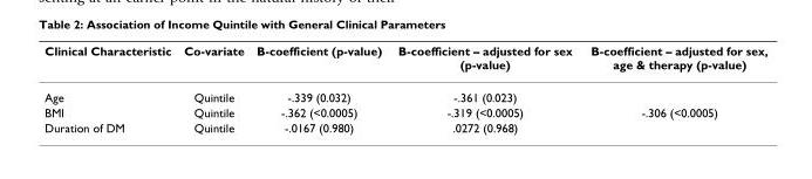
<table><thead><tr><td>Clinical Characteristic</td><td>Co-variate</td><td>B-coefficient (p-value)</td><td>B-coefficient – adjusted for sex (p-value)</td><td>B-coefficient – adjusted for sex, age &amp; therapy (p-value)</td></tr></thead><tbody><tr><td>Age</td><td>Quintile</td><td>-.339 (0.032)</td><td>-.361 (0.023)</td><td></td></tr><tr><td>BMI</td><td>Quintile</td><td>-.362 (&lt;0.0005)</td><td>-.319 (&lt;0.0005)</td><td>-.306 (&lt;0.0005)</td></tr><tr><td>Duration of DM</td><td>Quintile</td><td>-.0167 (0.980)</td><td>.0272 (0.968)</td><td></td></tr></tbody></table>